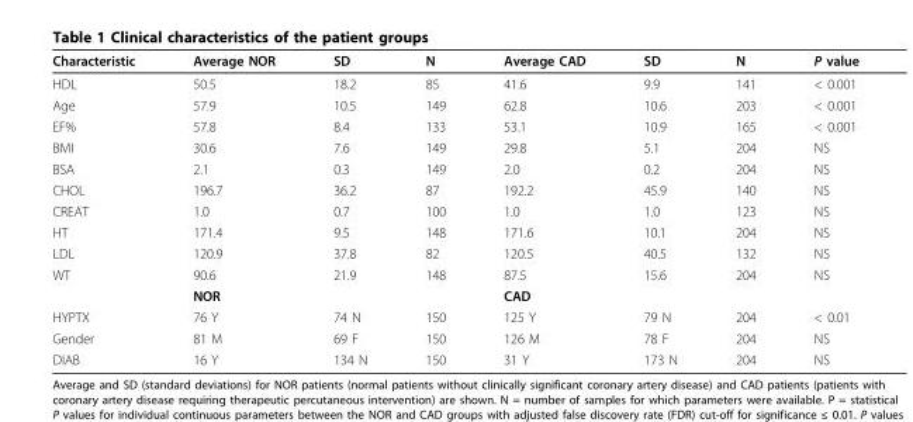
<table><thead><tr><td>Characteristic</td><td>Average NOR</td><td>SD</td><td>N</td><td>Average CAD</td><td>SD</td><td>N</td><td>P value</td></tr></thead><tbody><tr><td>HDL</td><td>50.5</td><td>18.2</td><td>85</td><td>41.6</td><td>9.9</td><td>141</td><td>&lt; 0.001</td></tr><tr><td>Age</td><td>57.9</td><td>10.5</td><td>149</td><td>62.8</td><td>10.6</td><td>203</td><td>&lt; 0.001</td></tr><tr><td>EF%</td><td>57.8</td><td>8.4</td><td>133</td><td>53.1</td><td>10.9</td><td>165</td><td>&lt; 0.001</td></tr><tr><td>BMI</td><td>30.6</td><td>7.6</td><td>149</td><td>29.8</td><td>5.1</td><td>204</td><td>NS</td></tr><tr><td>BSA</td><td>2.1</td><td>0.3</td><td>149</td><td>2.0</td><td>0.2</td><td>204</td><td>NS</td></tr><tr><td>CHOL</td><td>196.7</td><td>36.2</td><td>87</td><td>192.2</td><td>45.9</td><td>140</td><td>NS</td></tr><tr><td>CREAT</td><td>1.0</td><td>0.7</td><td>100</td><td>1.0</td><td>1.0</td><td>123</td><td>NS</td></tr><tr><td>HT</td><td>171.4</td><td>9.5</td><td>148</td><td>171.6</td><td>10.1</td><td>204</td><td>NS</td></tr><tr><td>LDL</td><td>120.9</td><td>37.8</td><td>82</td><td>120.5</td><td>40.5</td><td>132</td><td>NS</td></tr><tr><td rowspan="2">WT</td><td>90.6</td><td>21.9</td><td>148</td><td>87.5</td><td>15.6</td><td>204</td><td>NS</td></tr><tr><td>NOR</td><td></td><td></td><td>CAD</td><td></td><td></td><td></td></tr><tr><td>HYPTX</td><td>76 Y</td><td>74 N</td><td>150</td><td>125 Y</td><td>79 N</td><td>204</td><td>&lt; 0.01</td></tr><tr><td>Gender</td><td>81 M</td><td>69 F</td><td>150</td><td>126 M</td><td>78 F</td><td>204</td><td>NS</td></tr><tr><td>DIAB</td><td>16 Y</td><td>134 N</td><td>150</td><td>31 Y</td><td>173 N</td><td>204</td><td>NS</td></tr></tbody></table>